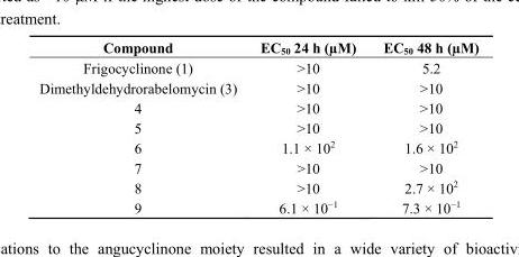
<table><thead><tr><td>Compound</td><td>EC<sub>50</sub> 24 h (µM)</td><td>EC<sub>50</sub> 48 h (µM)</td></tr></thead><tbody><tr><td>Frigocyclinone (1)</td><td>&gt;10</td><td>5.2</td></tr><tr><td>Dimethyldehydrorabelomycin (3)</td><td>&gt;10</td><td>&gt;10</td></tr><tr><td>4</td><td>&gt;10</td><td>&gt;10</td></tr><tr><td>5</td><td>&gt;10</td><td>&gt;10</td></tr><tr><td>6</td><td>1.1 × 10<sup>2</sup></td><td>1.6 × 10<sup>2</sup></td></tr><tr><td>7</td><td>&gt;10</td><td>&gt;10</td></tr><tr><td>8</td><td>&gt;10</td><td>2.7 × 10<sup>2</sup></td></tr><tr><td>9</td><td>6.1 × 10<sup>−1</sup></td><td>7.3 × 10<sup>−1</sup></td></tr></tbody></table>